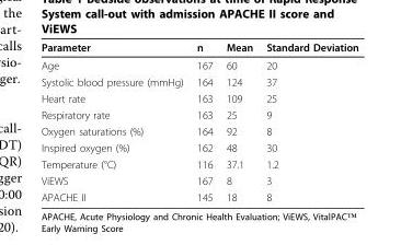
<table><thead><tr><td>Parameter</td><td>n</td><td>Mean</td><td>Standard Deviation</td></tr></thead><tbody><tr><td>Age</td><td>167</td><td>60</td><td>20</td></tr><tr><td>Systolic blood pressure (mmHg)</td><td>164</td><td>124</td><td>37</td></tr><tr><td>Heart rate</td><td>163</td><td>109</td><td>25</td></tr><tr><td>Respiratory rate</td><td>163</td><td>25</td><td>9</td></tr><tr><td>Oxygen saturations (%)</td><td>164</td><td>92</td><td>8</td></tr><tr><td>Inspired oxygen (%)</td><td>162</td><td>48</td><td>30</td></tr><tr><td>Temperature (°C)</td><td>116</td><td>37.1</td><td>1.2</td></tr><tr><td>ViEWS</td><td>167</td><td>8</td><td>3</td></tr><tr><td>APACHE II</td><td>145</td><td>18</td><td>8</td></tr></tbody></table>